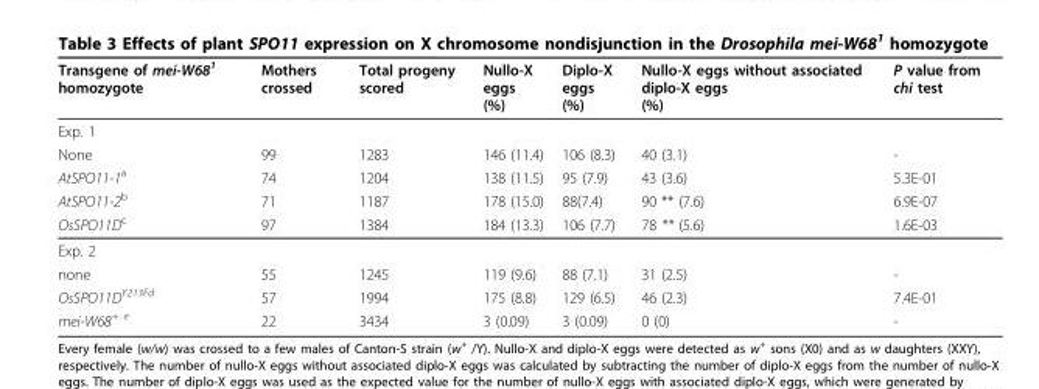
<table><thead><tr><td>Transgene of mei-W68<sup>1</sup> homozygote</td><td>Mothers crossed</td><td>Total progeny scored</td><td>Nullo-X eggs (%)</td><td>Diplo-X eggs (%)</td><td>Nullo-X eggs without associated diplo-X eggs (%)</td><td>P value from chi test</td></tr></thead><tbody><tr><td colspan="7">Exp. 1</td></tr><tr><td>None</td><td>99</td><td>1283</td><td>146 (11.4)</td><td>106 (8.3)</td><td>40 (3.1)</td><td>-</td></tr><tr><td>AtSPO11-1<sup>a</sup></td><td>74</td><td>1204</td><td>138 (11.5)</td><td>95 (7.9)</td><td>43 (3.6)</td><td>5.3E-01</td></tr><tr><td>AtSPO11-2<sup>b</sup></td><td>71</td><td>1187</td><td>178 (15.0)</td><td>88(7.4)</td><td>90 ** (7.6)</td><td>6.9E-07</td></tr><tr><td>OsSPO11D<sup>c</sup></td><td>97</td><td>1384</td><td>184 (13.3)</td><td>106 (7.7)</td><td>78 ** (5.6)</td><td>1.6E-03</td></tr><tr><td colspan="7">Exp. 2</td></tr><tr><td>none</td><td>55</td><td>1245</td><td>119 (9.6)</td><td>88 (7.1)</td><td>31 (2.5)</td><td>-</td></tr><tr><td>OsSPO11D<sup>Y213Fd</sup></td><td>57</td><td>1994</td><td>175 (8.8)</td><td>129 (6.5)</td><td>46 (2.3)</td><td>7.4E-01</td></tr><tr><td>mei-W68<sup>+ e</sup></td><td>22</td><td>3434</td><td>3 (0.09)</td><td>3 (0.09)</td><td>0 (0)</td><td>-</td></tr></tbody></table>